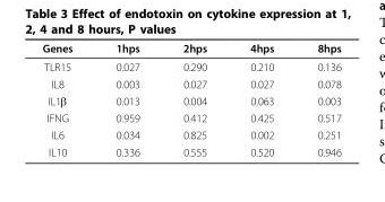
<table><thead><tr><td>Genes</td><td>1hps</td><td>2hps</td><td>4hps</td><td>8hps</td></tr></thead><tbody><tr><td>TLR15</td><td>0.027</td><td>0.290</td><td>0.210</td><td>0.136</td></tr><tr><td>IL8</td><td>0.003</td><td>0.027</td><td>0.027</td><td>0.078</td></tr><tr><td>IL1β</td><td>0.013</td><td>0.004</td><td>0.063</td><td>0.003</td></tr><tr><td>IFNG</td><td>0.959</td><td>0.412</td><td>0.425</td><td>0.517</td></tr><tr><td>IL6</td><td>0.034</td><td>0.825</td><td>0.002</td><td>0.251</td></tr><tr><td>IL10</td><td>0.336</td><td>0.555</td><td>0.520</td><td>0.946</td></tr></tbody></table>